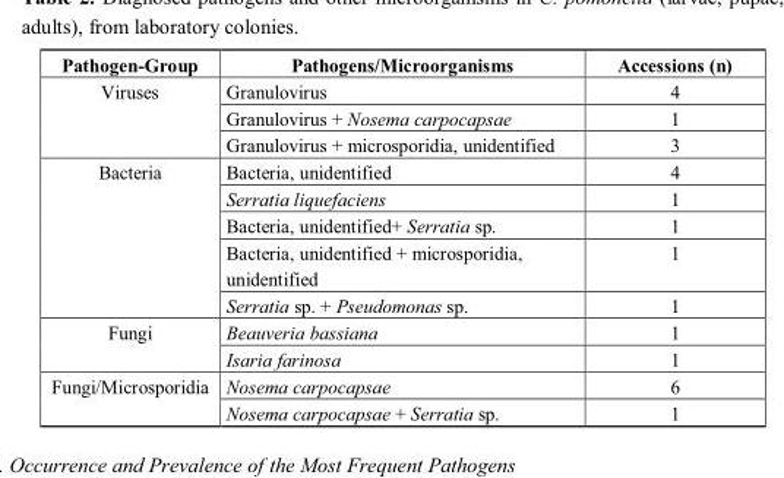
<table><thead><tr><td>Pathogen-Group</td><td>Pathogens/Microorganisms</td><td>Accessions (n)</td></tr></thead><tbody><tr><td rowspan="3">Viruses</td><td>Granulovirus</td><td>4</td></tr><tr><td>Granulovirus + Nosema carpocapsae</td><td>1</td></tr><tr><td>Granulovirus + microsporidia, unidentified</td><td>3</td></tr><tr><td rowspan="5">Bacteria</td><td>Bacteria, unidentified</td><td>4</td></tr><tr><td>Serratia liquefaciens</td><td>1</td></tr><tr><td>Bacteria, unidentified+ Serratia sp.</td><td>1</td></tr><tr><td>Bacteria, unidentified + microsporidia, unidentified</td><td>1</td></tr><tr><td>Serratia sp. + Pseudomonas sp.</td><td>1</td></tr><tr><td rowspan="2">Fungi</td><td>Beauveria bassiana</td><td>1</td></tr><tr><td>Isaria farinosa</td><td>1</td></tr><tr><td rowspan="2">Fungi/Microsporidia</td><td>Nosema carpocapsae</td><td>6</td></tr><tr><td>Nosema carpocapsae + Serratia sp.</td><td>1</td></tr></tbody></table>